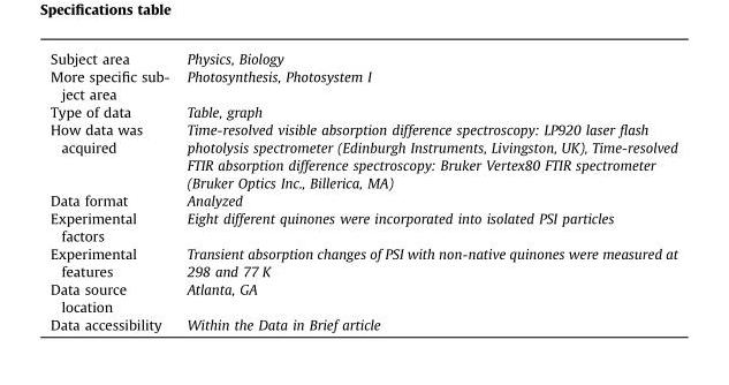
<table><tbody><tr><td>Subject area</td><td>Physics, Biology</td></tr><tr><td>More specific sub- ject area</td><td>Photosynthesis, Photosystem I</td></tr><tr><td>Type of data</td><td>Table, graph</td></tr><tr><td>How data was acquired</td><td>Time-resolved visible absorption difference spectroscopy: LP920 laser flash photolysis spectrometer (Edinburgh Instruments, Livingston, UK), Time-resolved FTIR absorption difference spectroscopy: Bruker Vertex80 FTIR spectrometer (Bruker Optics Inc., Billerica, MA)</td></tr><tr><td>Data format</td><td>Analyzed</td></tr><tr><td>Experimental factors</td><td>Eight different quinones were incorporated into isolated PSI particles</td></tr><tr><td>Experimental features</td><td>Transient absorption changes of PSI with non-native quinones were measured at 298 and 77 K</td></tr><tr><td>Data source location</td><td>Atlanta, GA</td></tr><tr><td>Data accessibility</td><td>Within the Data in Brief article</td></tr></tbody></table>